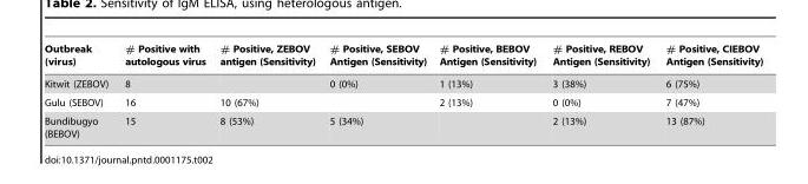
<table><thead><tr><td>Outbreak (virus)</td><td># Positive with autologous virus</td><td># Positive, ZEBOV antigen (Sensitivity)</td><td># Positive, SEBOV Antigen (Sensitivity)</td><td># Positive, BEBOV Antigen (Sensitivity)</td><td># Positive, REBOV Antigen (Sensitivity)</td><td># Positive, CIEBOV Antigen (Sensitivity)</td></tr></thead><tbody><tr><td>Kitwit (ZEBOV)</td><td>8</td><td></td><td>0 (0%)</td><td>1 (13%)</td><td>3 (38%)</td><td>6 (75%)</td></tr><tr><td>Gulu (SEBOV)</td><td>16</td><td>10 (67%)</td><td></td><td>2 (13%)</td><td>0 (0%)</td><td>7 (47%)</td></tr><tr><td>Bundibugyo (BEBOV)</td><td>15</td><td>8 (53%)</td><td>5 (34%)</td><td></td><td>2 (13%)</td><td>13 (87%)</td></tr></tbody></table>